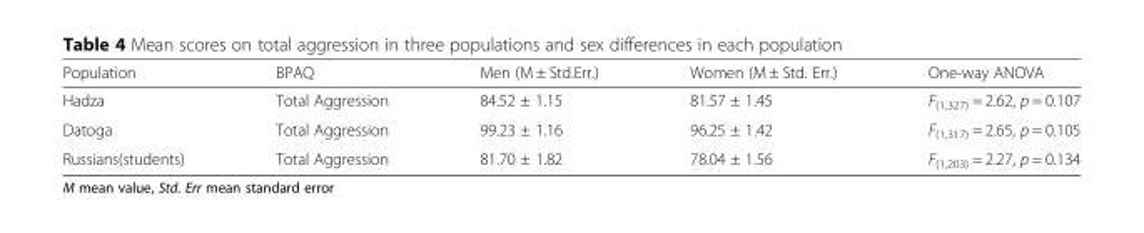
<table><thead><tr><td>Population</td><td>BPAQ</td><td>Men (M ± Std.Err.)</td><td>Women (M ± Std. Err.)</td><td>One-way ANOVA</td></tr></thead><tbody><tr><td>Hadza</td><td>Total Aggression</td><td>84.52 ± 1.15</td><td>81.57 ± 1.45</td><td>F<sub>(1,327)</sub> = 2.62, p = 0.107</td></tr><tr><td>Datoga</td><td>Total Aggression</td><td>99.23 ± 1.16</td><td>96.25 ± 1.42</td><td>F<sub>(1,317)</sub> = 2.65, p = 0.105</td></tr><tr><td>Russians(students)</td><td>Total Aggression</td><td>81.70 ± 1.82</td><td>78.04 ± 1.56</td><td>F<sub>(1,203)</sub> = 2.27, p = 0.134</td></tr></tbody></table>